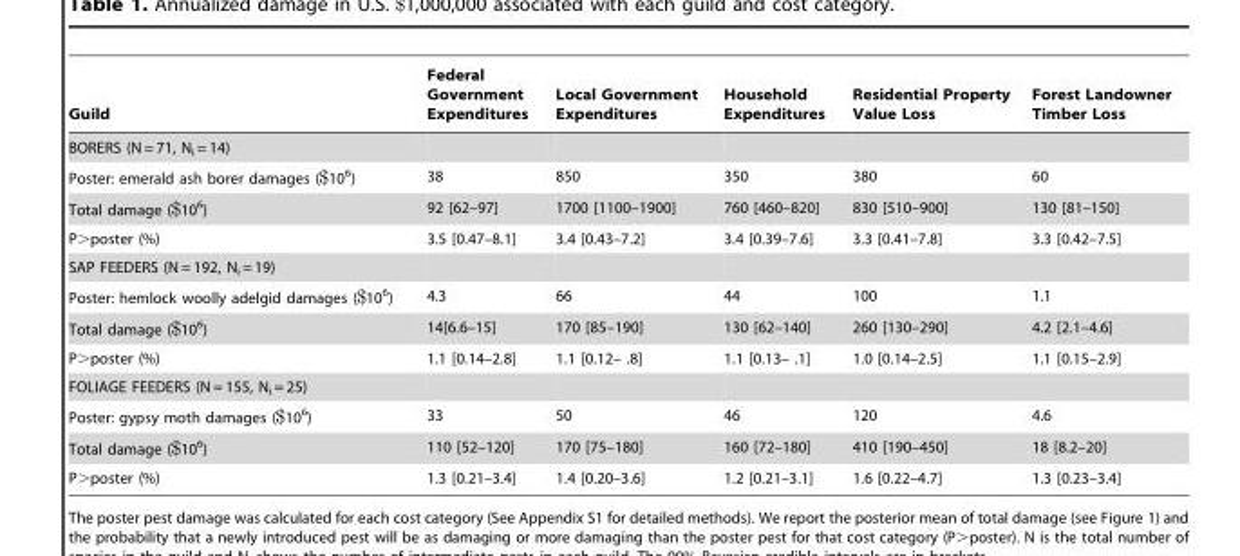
<table><thead><tr><td>Guild</td><td>Federal Government Expenditures</td><td>Local Government Expenditures</td><td>Household Expenditures</td><td>Residential Property Value Loss</td><td>Forest Landowner Timber Loss</td></tr></thead><tbody><tr><td colspan="6">BORERS (N = 71, N<sub>i</sub> = 14)</td></tr><tr><td>Poster: emerald ash borer damages ($10<sup>6</sup>)</td><td>38</td><td>850</td><td>350</td><td>380</td><td>60</td></tr><tr><td>Total damage ($10<sup>6</sup>)</td><td>92 [62–97]</td><td>1700 [1100–1900]</td><td>760 [460–820]</td><td>830 [510–900]</td><td>130 [81–150]</td></tr><tr><td>P&gt;poster (%)</td><td>3.5 [0.47–8.1]</td><td>3.4 [0.43–7.2]</td><td>3.4 [0.39–7.6]</td><td>3.3 [0.41–7.8]</td><td>3.3 [0.42–7.5]</td></tr><tr><td colspan="6">SAP FEEDERS (N = 192, N<sub>i</sub> = 19)</td></tr><tr><td>Poster: hemlock woolly adelgid damages ($10<sup>6</sup>)</td><td>4.3</td><td>66</td><td>44</td><td>100</td><td>1.1</td></tr><tr><td>Total damage ($10<sup>6</sup>)</td><td>14[6.6–15]</td><td>170 [85–190]</td><td>130 [62–140]</td><td>260 [130–290]</td><td>4.2 [2.1–4.6]</td></tr><tr><td>P&gt;poster (%)</td><td>1.1 [0.14–2.8]</td><td>1.1 [0.12– .8]</td><td>1.1 [0.13– .1]</td><td>1.0 [0.14–2.5]</td><td>1.1 [0.15–2.9]</td></tr><tr><td colspan="6">FOLIAGE FEEDERS (N = 155, N<sub>i</sub> = 25)</td></tr><tr><td>Poster: gypsy moth damages ($10<sup>6</sup>)</td><td>33</td><td>50</td><td>46</td><td>120</td><td>4.6</td></tr><tr><td>Total damage ($10<sup>6</sup>)</td><td>110 [52–120]</td><td>170 [75–180]</td><td>160 [72–180]</td><td>410 [190–450]</td><td>18 [8.2–20]</td></tr><tr><td>P&gt;poster (%)</td><td>1.3 [0.21–3.4]</td><td>1.4 [0.20–3.6]</td><td>1.2 [0.21–3.1]</td><td>1.6 [0.22–4.7]</td><td>1.3 [0.23–3.4]</td></tr></tbody></table>